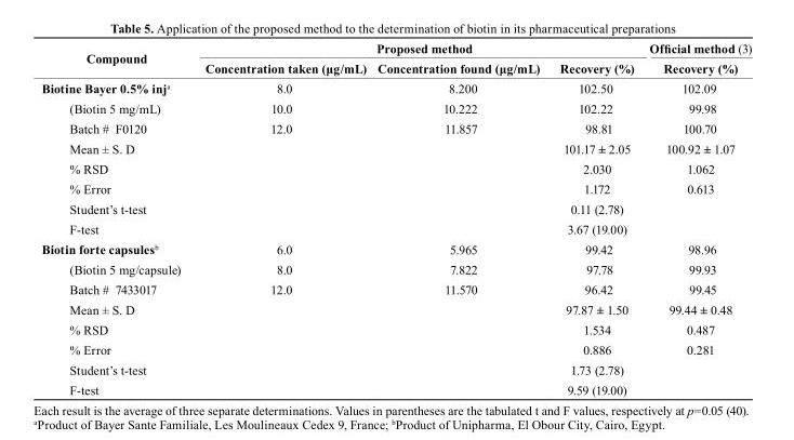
<table><thead><tr><td rowspan="2">compound</td><td colspan="3">proposed method</td><td rowspan="2">Official method (3) recovery (%)</td></tr><tr><td>concentration taken (μg/mL)</td><td>concentration found (μg/mL)</td><td>recovery (%)</td></tr></thead><tbody><tr><td>Biotine Bayer 0.5% inj<sup>a</sup></td><td>8.0</td><td>8.200</td><td>102.50</td><td>102.09</td></tr><tr><td>(Biotin 5 mg/mL)</td><td>10.0</td><td>10.222</td><td>102.22</td><td>99.98</td></tr><tr><td>Batch # F0120</td><td>12.0</td><td>11.857</td><td>98.81</td><td>100.70</td></tr><tr><td>Mean ± S. D</td><td></td><td></td><td>101.17 ± 2.05</td><td>100.92 ± 1.07</td></tr><tr><td>% RSD</td><td></td><td></td><td>2.030</td><td>1.062</td></tr><tr><td>% Error</td><td></td><td></td><td>1.172</td><td>0.613</td></tr><tr><td>Student’s t-test</td><td></td><td></td><td>0.11 (2.78)</td><td></td></tr><tr><td>F-test</td><td></td><td></td><td>3.67 (19.00)</td><td></td></tr><tr><td>biotin forte capsules<sup>b</sup></td><td>6.0</td><td>5.965</td><td>99.42</td><td>98.96</td></tr><tr><td>(Biotin 5 mg/capsule)</td><td>8.0</td><td>7.822</td><td>97.78</td><td>99.93</td></tr><tr><td>Batch # 7433017</td><td>12.0</td><td>11.570</td><td>96.42</td><td>99.45</td></tr><tr><td>Mean ± S. D</td><td></td><td></td><td>97.87 ± 1.50</td><td>99.44 ± 0.48</td></tr><tr><td>% RSD</td><td></td><td></td><td>1.534</td><td>0.487</td></tr><tr><td>% Error</td><td></td><td></td><td>0.886</td><td>0.281</td></tr><tr><td>Student’s t-test</td><td></td><td></td><td>1.73 (2.78)</td><td></td></tr><tr><td>F-test</td><td></td><td></td><td>9.59 (19.00)</td><td></td></tr></tbody></table>